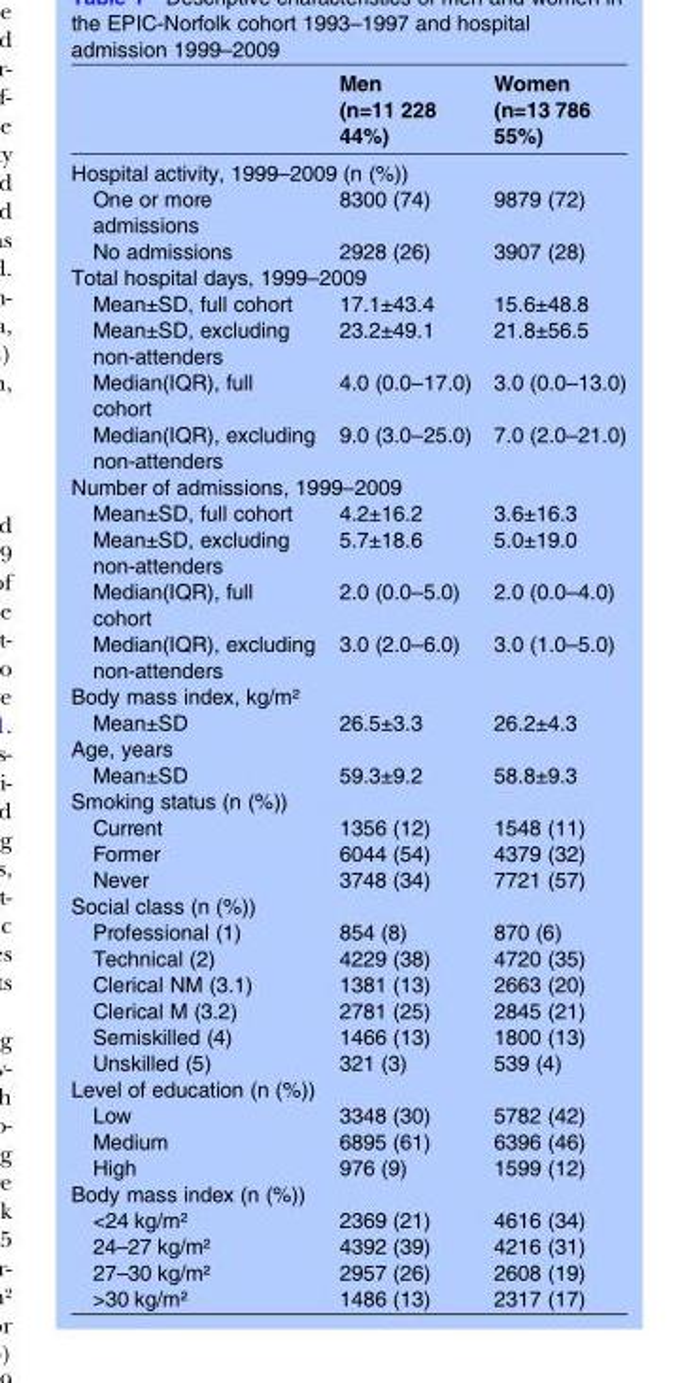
<table><thead><tr><td></td><td>Men (n=11 228 44%)</td><td>Women (n=13 786 55%)</td></tr></thead><tbody><tr><td colspan="3">Hospital activity, 1999–2009 (n (%))</td></tr><tr><td>One or more admissions</td><td>8300 (74)</td><td>9879 (72)</td></tr><tr><td>No admissions</td><td>2928 (26)</td><td>3907 (28)</td></tr><tr><td colspan="3">Total hospital days, 1999–2009</td></tr><tr><td>Mean±SD, full cohort</td><td>17.1±43.4</td><td>15.6±48.8</td></tr><tr><td>Mean±SD, excluding non-attenders</td><td>23.2±49.1</td><td>21.8±56.5</td></tr><tr><td>Median(IQR), full cohort</td><td>4.0 (0.0–17.0)</td><td>3.0 (0.0–13.0)</td></tr><tr><td>Median(IQR), excluding non-attenders</td><td>9.0 (3.0–25.0)</td><td>7.0 (2.0–21.0)</td></tr><tr><td colspan="3">Number of admissions, 1999–2009</td></tr><tr><td>Mean±SD, full cohort</td><td>4.2±16.2</td><td>3.6±16.3</td></tr><tr><td>Mean±SD, excluding non-attenders</td><td>5.7±18.6</td><td>5.0±19.0</td></tr><tr><td>Median(IQR), full cohort</td><td>2.0 (0.0–5.0)</td><td>2.0 (0.0–4.0)</td></tr><tr><td>Median(IQR), excluding non-attenders</td><td>3.0 (2.0–6.0)</td><td>3.0 (1.0–5.0)</td></tr><tr><td colspan="3">Body mass index, kg/m²</td></tr><tr><td>Mean±SD</td><td>26.5±3.3</td><td>26.2±4.3</td></tr><tr><td colspan="3">Age, years</td></tr><tr><td>Mean±SD</td><td>59.3±9.2</td><td>58.8±9.3</td></tr><tr><td colspan="3">Smoking status (n (%))</td></tr><tr><td>Current</td><td>1356 (12)</td><td>1548 (11)</td></tr><tr><td>Former</td><td>6044 (54)</td><td>4379 (32)</td></tr><tr><td>Never</td><td>3748 (34)</td><td>7721 (57)</td></tr><tr><td colspan="3">Social class (n (%))</td></tr><tr><td>Professional (1)</td><td>854 (8)</td><td>870 (6)</td></tr><tr><td>Technical (2)</td><td>4229 (38)</td><td>4720 (35)</td></tr><tr><td>Clerical NM (3.1)</td><td>1381 (13)</td><td>2663 (20)</td></tr><tr><td>Clerical M (3.2)</td><td>2781 (25)</td><td>2845 (21)</td></tr><tr><td>Semiskilled (4)</td><td>1466 (13)</td><td>1800 (13)</td></tr><tr><td>Unskilled (5)</td><td>321 (3)</td><td>539 (4)</td></tr><tr><td colspan="3">Level of education (n (%))</td></tr><tr><td>Low</td><td>3348 (30)</td><td>5782 (42)</td></tr><tr><td>Medium</td><td>6895 (61)</td><td>6396 (46)</td></tr><tr><td>High</td><td>976 (9)</td><td>1599 (12)</td></tr><tr><td colspan="3">Body mass index (n (%))</td></tr><tr><td>&lt;24 kg/m²</td><td>2369 (21)</td><td>4616 (34)</td></tr><tr><td>24–27 kg/m²</td><td>4392 (39)</td><td>4216 (31)</td></tr><tr><td>27–30 kg/m²</td><td>2957 (26)</td><td>2608 (19)</td></tr><tr><td>&gt;30 kg/m²</td><td>1486 (13)</td><td>2317 (17)</td></tr></tbody></table>